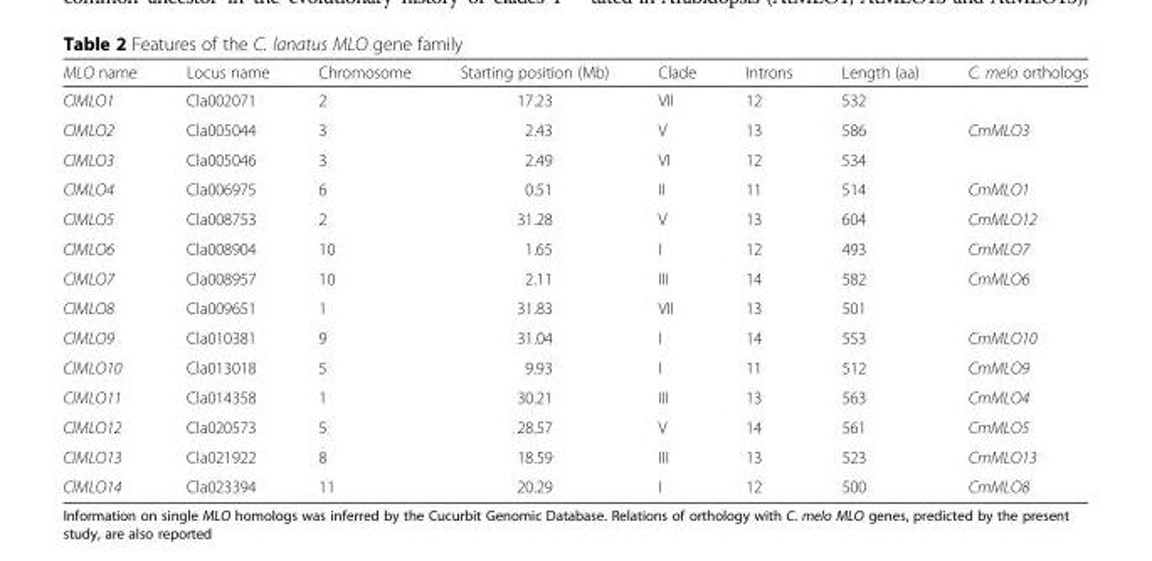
<table><thead><tr><td>MLO name</td><td>Locus name</td><td>Chromosome</td><td>Starting position (Mb)</td><td>Clade</td><td>Introns</td><td>Length (aa)</td><td>C. melo orthologs</td></tr></thead><tbody><tr><td>ClMLO1</td><td>Cla002071</td><td>2</td><td>17.23</td><td>VII</td><td>12</td><td>532</td><td></td></tr><tr><td>ClMLO2</td><td>Cla005044</td><td>3</td><td>2.43</td><td>V</td><td>13</td><td>586</td><td>CmMLO3</td></tr><tr><td>ClMLO3</td><td>Cla005046</td><td>3</td><td>2.49</td><td>VI</td><td>12</td><td>534</td><td></td></tr><tr><td>ClMLO4</td><td>Cla006975</td><td>6</td><td>0.51</td><td>II</td><td>11</td><td>514</td><td>CmMLO1</td></tr><tr><td>ClMLO5</td><td>Cla008753</td><td>2</td><td>31.28</td><td>V</td><td>13</td><td>604</td><td>CmMLO12</td></tr><tr><td>ClMLO6</td><td>Cla008904</td><td>10</td><td>1.65</td><td>I</td><td>12</td><td>493</td><td>CmMLO7</td></tr><tr><td>ClMLO7</td><td>Cla008957</td><td>10</td><td>2.11</td><td>III</td><td>14</td><td>582</td><td>CmMLO6</td></tr><tr><td>ClMLO8</td><td>Cla009651</td><td>1</td><td>31.83</td><td>VII</td><td>13</td><td>501</td><td></td></tr><tr><td>ClMLO9</td><td>Cla010381</td><td>9</td><td>31.04</td><td>I</td><td>14</td><td>553</td><td>CmMLO10</td></tr><tr><td>ClMLO10</td><td>Cla013018</td><td>5</td><td>9.93</td><td>I</td><td>11</td><td>512</td><td>CmMLO9</td></tr><tr><td>ClMLO11</td><td>Cla014358</td><td>1</td><td>30.21</td><td>III</td><td>13</td><td>563</td><td>CmMLO4</td></tr><tr><td>ClMLO12</td><td>Cla020573</td><td>5</td><td>28.57</td><td>V</td><td>14</td><td>561</td><td>CmMLO5</td></tr><tr><td>ClMLO13</td><td>Cla021922</td><td>8</td><td>18.59</td><td>III</td><td>13</td><td>523</td><td>CmMLO13</td></tr><tr><td>ClMLO14</td><td>Cla023394</td><td>11</td><td>20.29</td><td>I</td><td>12</td><td>500</td><td>CmMLO8</td></tr></tbody></table>